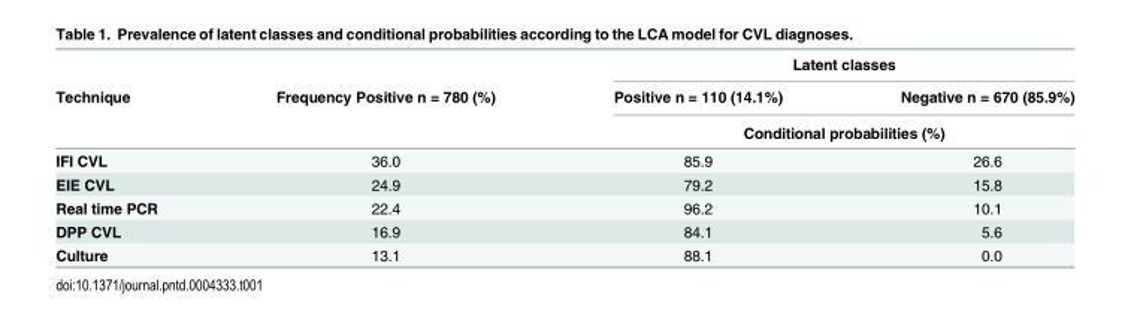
<table><thead><tr><td rowspan="3">Technique</td><td rowspan="3">Frequency Positive n = 780 (%)</td><td colspan="2">Latent classes</td></tr><tr><td>Positive n = 110 (14.1%)</td><td>Negative n = 670 (85.9%)</td></tr><tr><td colspan="2">Conditional probabilities (%)</td></tr></thead><tbody><tr><td>IFI CVL</td><td>36.0</td><td>85.9</td><td>26.6</td></tr><tr><td>EIE CVL</td><td>24.9</td><td>79.2</td><td>15.8</td></tr><tr><td>Real time PCR</td><td>22.4</td><td>96.2</td><td>10.1</td></tr><tr><td>DPP CVL</td><td>16.9</td><td>84.1</td><td>5.6</td></tr><tr><td>Culture</td><td>13.1</td><td>88.1</td><td>0.0</td></tr></tbody></table>